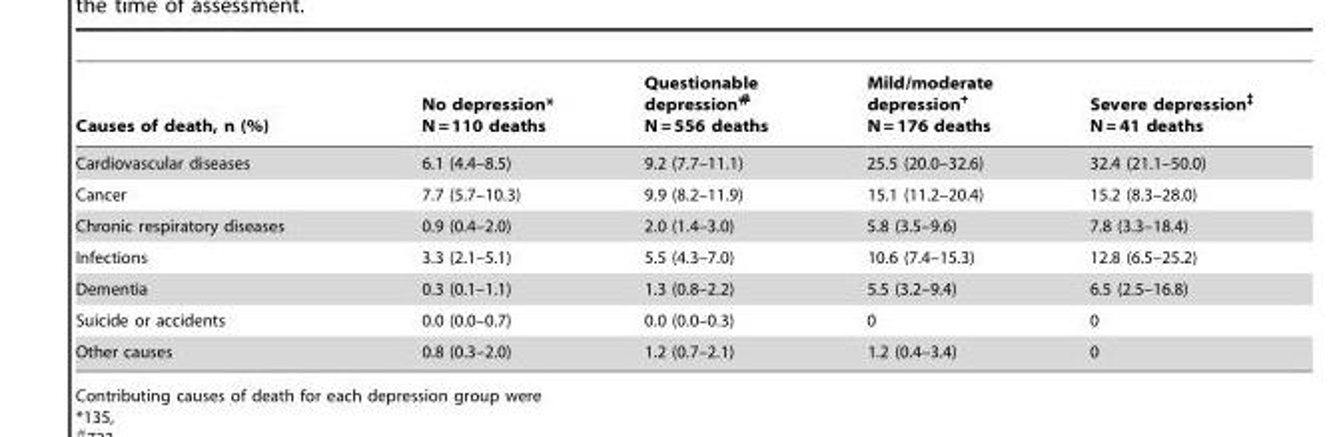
<table><thead><tr><td>Causes of death, n (%)</td><td>No depression* N = 110 deaths</td><td>Questionable depression# N = 556 deaths</td><td>Mild/moderate depression+ N = 176 deaths</td><td>Severe depression‡ N = 41 deaths</td></tr></thead><tbody><tr><td>Cardiovascular diseases</td><td>6.1 (4.4–8.5)</td><td>9.2 (7.7–11.1)</td><td>25.5 (20.0–32.6)</td><td>32.4 (21.1–50.0)</td></tr><tr><td>Cancer</td><td>7.7 (5.7–10.3)</td><td>9.9 (8.2–11.9)</td><td>15.1 (11.2–20.4)</td><td>15.2 (8.3–28.0)</td></tr><tr><td>Chronic respiratory diseases</td><td>0.9 (0.4–2.0)</td><td>2.0 (1.4–3.0)</td><td>5.8 (3.5–9.6)</td><td>7.8 (3.3–18.4)</td></tr><tr><td>Infections</td><td>3.3 (2.1–5.1)</td><td>5.5 (4.3–7.0)</td><td>10.6 (7.4–15.3)</td><td>12.8 (6.5–25.2)</td></tr><tr><td>Dementia</td><td>0.3 (0.1–1.1)</td><td>1.3 (0.8–2.2)</td><td>5.5 (3.2–9.4)</td><td>6.5 (2.5–16.8)</td></tr><tr><td>Suicide or accidents</td><td>0.0 (0.0–0.7)</td><td>0.0 (0.0–0.3)</td><td>0</td><td>0</td></tr><tr><td>Other causes</td><td>0.8 (0.3–2.0)</td><td>1.2 (0.7–2.1)</td><td>1.2 (0.4–3.4)</td><td>0</td></tr></tbody></table>